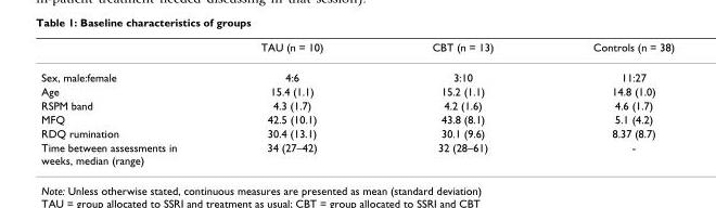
<table><thead><tr><td></td><td>TAU (n = 10)</td><td>CBT (n = 13)</td><td>Controls (n = 38)</td></tr></thead><tbody><tr><td>Sex, male:female</td><td>4:6</td><td>3:10</td><td>11:27</td></tr><tr><td>Age</td><td>15.4 (1.1)</td><td>15.2 (1.1)</td><td>14.8 (1.0)</td></tr><tr><td>RSPM band</td><td>4.3 (1.7)</td><td>4.2 (1.6)</td><td>4.6 (1.7)</td></tr><tr><td>MFQ</td><td>42.5 (10.1)</td><td>43.8 (8.1)</td><td>5.1 (4.2)</td></tr><tr><td>RDQ rumination</td><td>30.4 (13.1)</td><td>30.1 (9.6)</td><td>8.37 (8.7)</td></tr><tr><td>Time between assessments in weeks, median (range)</td><td>34 (27–42)</td><td>32 (28–61)</td><td>-</td></tr></tbody></table>